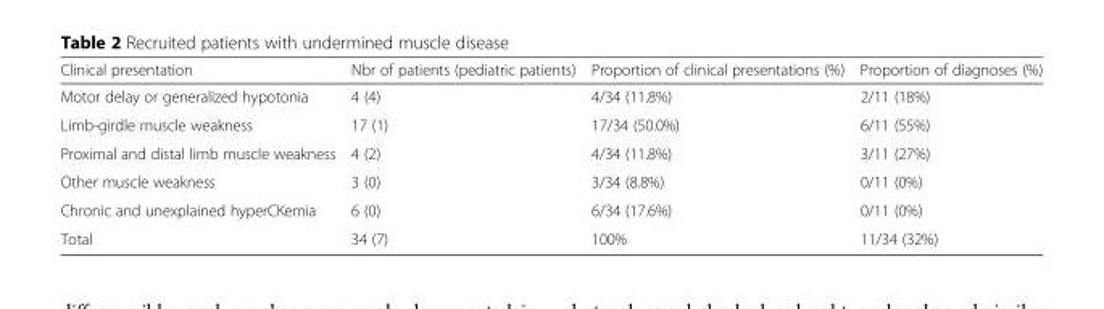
<table><thead><tr><td>Clinical presentation</td><td>Nbr of patients (pediatric patients)</td><td>Proportion of clinical presentations (%)</td><td>Proportion of diagnoses (%)</td></tr></thead><tbody><tr><td>Motor delay or generalized hypotonia</td><td>4 (4)</td><td>4/34 (11.8%)</td><td>2/11 (18%)</td></tr><tr><td>Limb-girdle muscle weakness</td><td>17 (1)</td><td>17/34 (50.0%)</td><td>6/11 (55%)</td></tr><tr><td>Proximal and distal limb muscle weakness</td><td>4 (2)</td><td>4/34 (11.8%)</td><td>3/11 (27%)</td></tr><tr><td>Other muscle weakness</td><td>3 (0)</td><td>3/34 (8.8%)</td><td>0/11 (0%)</td></tr><tr><td>Chronic and unexplained hyperCKemia</td><td>6 (0)</td><td>6/34 (17.6%)</td><td>0/11 (0%)</td></tr><tr><td>Total</td><td>34 (7)</td><td>100%</td><td>11/34 (32%)</td></tr></tbody></table>